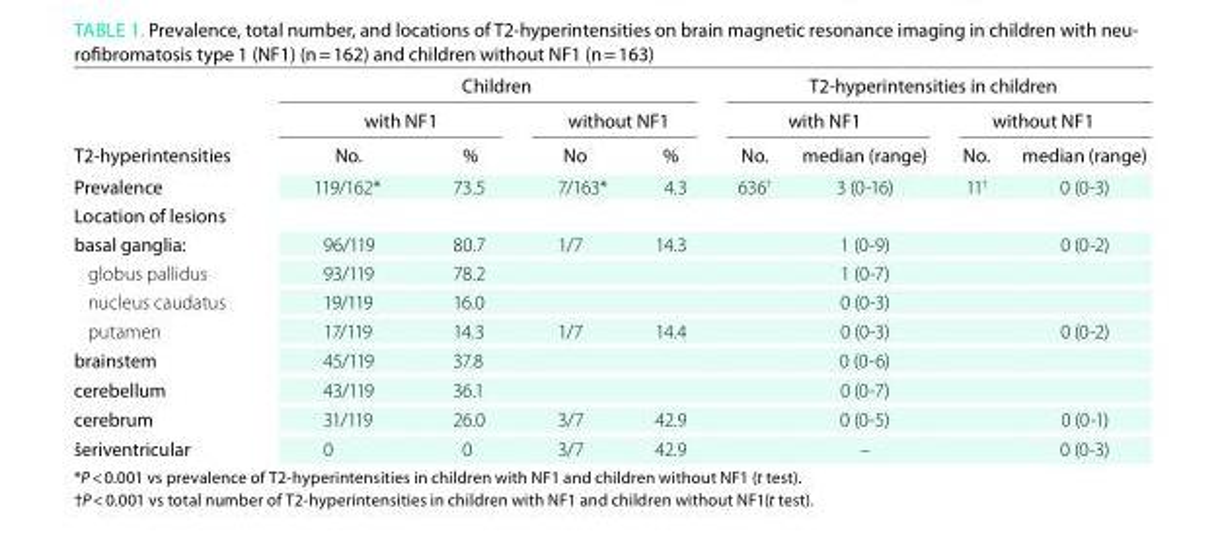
<table><thead><tr><td rowspan="3">t2-hyperintensities</td><td colspan="4">Children</td><td colspan="4">t2-hyperintensities in children</td></tr><tr><td colspan="2">with nF1</td><td colspan="2">without nF1</td><td colspan="2">with nF1</td><td colspan="2">without nF1</td></tr><tr><td>no.</td><td>%</td><td>no</td><td>%</td><td>no.</td><td>median (range)</td><td>no.</td><td>median (range)</td></tr></thead><tbody><tr><td>Prevalence</td><td>119/162*</td><td>73.5</td><td>7/163*</td><td>4.3</td><td>636<sup>†</sup></td><td>3 (0-16)</td><td>11<sup>†</sup></td><td>0 (0-3)</td></tr><tr><td colspan="9">location of lesions</td></tr><tr><td>basal ganglia:</td><td>96/119</td><td>80.7</td><td>1/7</td><td>14.3</td><td></td><td>1 (0-9)</td><td></td><td>0 (0-2)</td></tr><tr><td>globus pallidus</td><td>93/119</td><td>78.2</td><td></td><td></td><td></td><td>1 (0-7)</td><td></td><td></td></tr><tr><td>nucleus caudatus</td><td>19/119</td><td>16.0</td><td></td><td></td><td></td><td>0 (0-3)</td><td></td><td></td></tr><tr><td>putamen</td><td>17/119</td><td>14.3</td><td>1/7</td><td>14.4</td><td></td><td>0 (0-3)</td><td></td><td>0 (0-2)</td></tr><tr><td>brainstem</td><td>45/119</td><td>37.8</td><td></td><td></td><td></td><td>0 (0-6)</td><td></td><td></td></tr><tr><td>cerebellum</td><td>43/119</td><td>36.1</td><td></td><td></td><td></td><td>0 (0-7)</td><td></td><td></td></tr><tr><td>cerebrum</td><td>31/119</td><td>26.0</td><td>3/7</td><td>42.9</td><td></td><td>0 (0-5)</td><td></td><td>0 (0-1)</td></tr><tr><td>šeriventricular</td><td>0</td><td>0</td><td>3/7</td><td>42.9</td><td></td><td>–</td><td></td><td>0 (0-3)</td></tr></tbody></table>